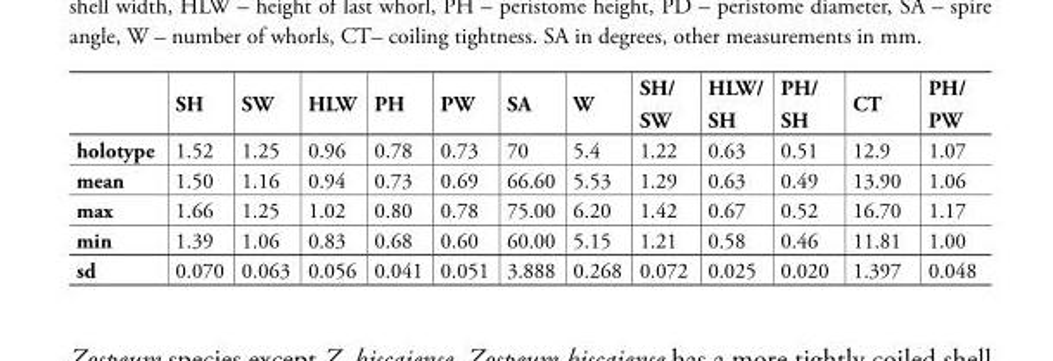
<table><thead><tr><td></td><td>SH</td><td>SW</td><td>HLW</td><td>PH</td><td>PW</td><td>SA</td><td>W</td><td>SH/ SW</td><td>HLW/ SH</td><td>PH/ SH</td><td>CT</td><td>PH/ PW</td></tr></thead><tbody><tr><td>holotype</td><td>1.52</td><td>1.25</td><td>0.96</td><td>0.78</td><td>0.73</td><td>70</td><td>5.4</td><td>1.22</td><td>0.63</td><td>0.51</td><td>12.9</td><td>1.07</td></tr><tr><td>mean</td><td>1.50</td><td>1.16</td><td>0.94</td><td>0.73</td><td>0.69</td><td>66.60</td><td>5.53</td><td>1.29</td><td>0.63</td><td>0.49</td><td>13.90</td><td>1.06</td></tr><tr><td>max</td><td>1.66</td><td>1.25</td><td>1.02</td><td>0.80</td><td>0.78</td><td>75.00</td><td>6.20</td><td>1.42</td><td>0.67</td><td>0.52</td><td>16.70</td><td>1.17</td></tr><tr><td>min</td><td>1.39</td><td>1.06</td><td>0.83</td><td>0.68</td><td>0.60</td><td>60.00</td><td>5.15</td><td>1.21</td><td>0.58</td><td>0.46</td><td>11.81</td><td>1.00</td></tr><tr><td>sd</td><td>0.070</td><td>0.063</td><td>0.056</td><td>0.041</td><td>0.051</td><td>3.888</td><td>0.268</td><td>0.072</td><td>0.025</td><td>0.020</td><td>1.397</td><td>0.048</td></tr></tbody></table>